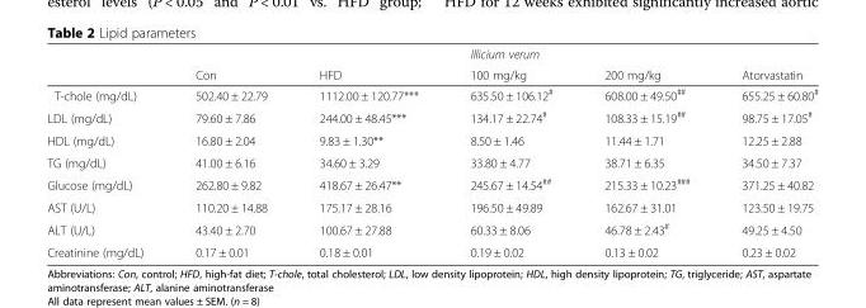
<table><thead><tr><td rowspan="2"></td><td rowspan="2">Con</td><td rowspan="2">HFD</td><td colspan="2">Illicium verum</td><td rowspan="2">Atorvastatin</td></tr><tr><td>100 mg/kg</td><td>200 mg/kg</td></tr></thead><tbody><tr><td>T-chole (mg/dL)</td><td>502.40 ± 22.79</td><td>1112.00 ± 120.77***</td><td>635.50 ± 106.12<sup>#</sup></td><td>608.00 ± 49.50<sup>##</sup></td><td>655.25 ± 60.80<sup>#</sup></td></tr><tr><td>LDL (mg/dL)</td><td>79.60 ± 7.86</td><td>244.00 ± 48.45***</td><td>134.17 ± 22.74<sup>#</sup></td><td>108.33 ± 15.19<sup>##</sup></td><td>98.75 ± 17.05<sup>#</sup></td></tr><tr><td>HDL (mg/dL)</td><td>16.80 ± 2.04</td><td>9.83 ± 1.30**</td><td>8.50 ± 1.46</td><td>11.44 ± 1.71</td><td>12.25 ± 2.88</td></tr><tr><td>TG (mg/dL)</td><td>41.00 ± 6.16</td><td>34.60 ± 3.29</td><td>33.80 ± 4.77</td><td>38.71 ± 6.35</td><td>34.50 ± 7.37</td></tr><tr><td>Glucose (mg/dL)</td><td>262.80 ± 9.82</td><td>418.67 ± 26.47**</td><td>245.67 ± 14.54<sup>##</sup></td><td>215.33 ± 10.23<sup>###</sup></td><td>371.25 ± 40.82</td></tr><tr><td>AST (U/L)</td><td>110.20 ± 14.88</td><td>175.17 ± 28.16</td><td>196.50 ± 49.89</td><td>162.67 ± 31.01</td><td>123.50 ± 19.75</td></tr><tr><td>ALT (U/L)</td><td>43.40 ± 2.70</td><td>100.67 ± 27.88</td><td>60.33 ± 8.06</td><td>46.78 ± 2.43<sup>#</sup></td><td>49.25 ± 4.50</td></tr><tr><td>Creatinine (mg/dL)</td><td>0.17 ± 0.01</td><td>0.18 ± 0.01</td><td>0.19 ± 0.02</td><td>0.13 ± 0.02</td><td>0.23 ± 0.02</td></tr></tbody></table>